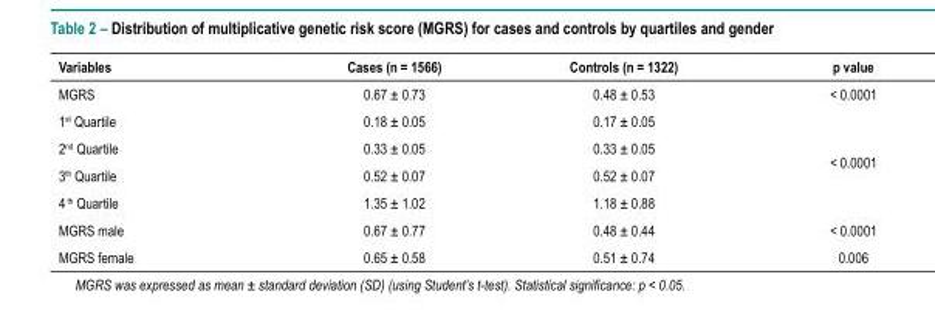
<table><thead><tr><td>Variables</td><td>Cases (n = 1566)</td><td>Controls (n = 1322)</td><td>p value</td></tr></thead><tbody><tr><td>MGRS</td><td>0.67 ± 0.73</td><td>0.48 ± 0.53</td><td>&lt; 0.0001</td></tr><tr><td>1<sup>st</sup> Quartile</td><td>0.18 ± 0.05</td><td>0.17 ± 0.05</td><td rowspan="4">&lt; 0.0001</td></tr><tr><td>2<sup>nd</sup> Quartile</td><td>0.33 ± 0.05</td><td>0.33 ± 0.05</td></tr><tr><td>3<sup>th</sup> Quartile</td><td>0.52 ± 0.07</td><td>0.52 ± 0.07</td></tr><tr><td>4 <sup>th</sup> Quartile</td><td>1.35 ± 1.02</td><td>1.18 ± 0.88</td></tr><tr><td>MGRS male</td><td>0.67 ± 0.77</td><td>0.48 ± 0.44</td><td>&lt; 0.0001</td></tr><tr><td>MGRS female</td><td>0.65 ± 0.58</td><td>0.51 ± 0.74</td><td>0.006</td></tr></tbody></table>